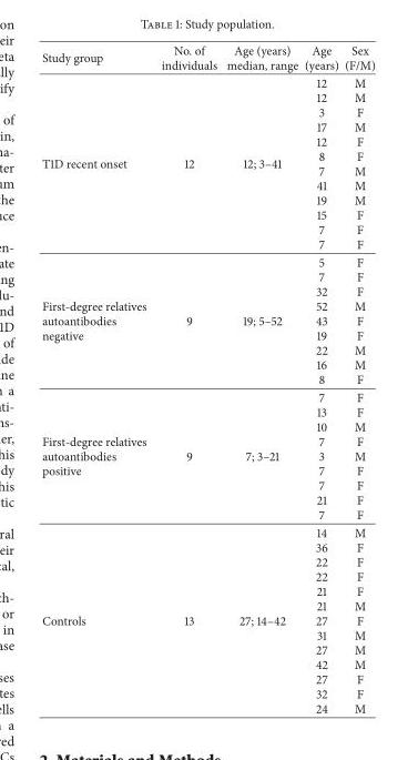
<table><thead><tr><td>Study group</td><td>No. of individuals</td><td>Age (years) median, range</td><td>Age (years)</td><td>Sex (F/M)</td></tr></thead><tbody><tr><td>T1D recent onset</td><td>12</td><td>12; 3–41</td><td>12 12 3 17 12 8 7 41 19 15 7 7</td><td>M M F M F F M M M F F F</td></tr><tr><td>First-degree relatives autoantibodies negative</td><td>9</td><td>19; 5–52</td><td>5 7 32 52 43 19 22 16 8</td><td>F F F M F F M M F</td></tr><tr><td>First-degree relatives autoantibodies positive</td><td>9</td><td>7; 3–21</td><td>7 13 10 7 3 7 7 21 7</td><td>F F M F M F F F F</td></tr><tr><td>Controls</td><td>13</td><td>27; 14–42</td><td>14 36 22 22 21 21 27 31 27 42 27 32 24</td><td>M F F F F M F M M M F F M</td></tr></tbody></table>